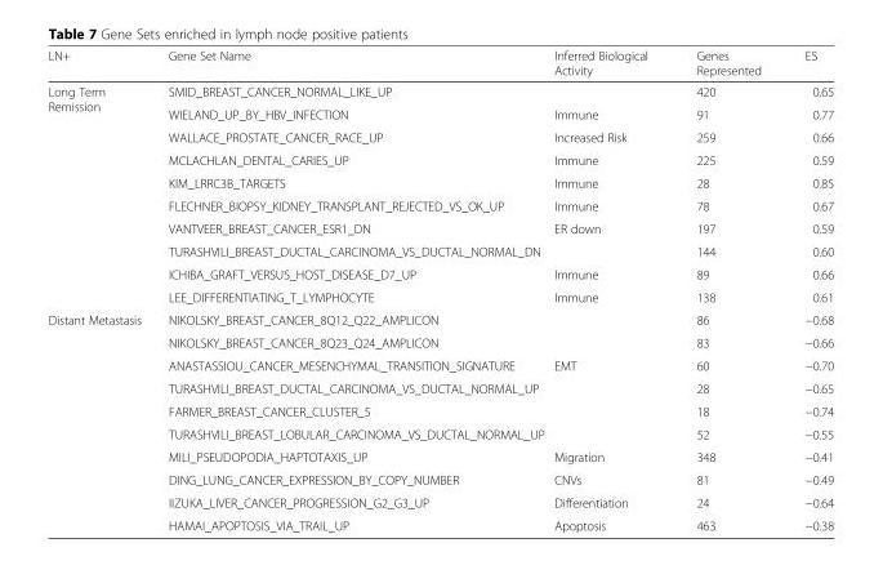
<table><thead><tr><td>LN+</td><td>Gene Set Name</td><td>Inferred Biological Activity</td><td>Genes Represented</td><td>ES</td></tr></thead><tbody><tr><td rowspan="10">Long Term Remission</td><td>SMID_BREAST_CANCER_NORMAL_LIKE_UP</td><td></td><td>420</td><td>0.65</td></tr><tr><td>WIELAND_UP_BY_HBV_INFECTION</td><td>Immune</td><td>91</td><td>0.77</td></tr><tr><td>WALLACE_PROSTATE_CANCER_RACE_UP</td><td>Increased Risk</td><td>259</td><td>0.66</td></tr><tr><td>MCLACHLAN_DENTAL_CARIES_UP</td><td>Immune</td><td>225</td><td>0.59</td></tr><tr><td>KIM_LRRC3B_TARGETS</td><td>Immune</td><td>28</td><td>0.85</td></tr><tr><td>FLECHNER_BIOPSY_KIDNEY_TRANSPLANT_REJECTED_VS_OK_UP</td><td>Immune</td><td>78</td><td>0.67</td></tr><tr><td>VANTVEER_BREAST_CANCER_ESR1_DN</td><td>ER down</td><td>197</td><td>0.59</td></tr><tr><td>TURASHVILI_BREAST_DUCTAL_CARCINOMA_VS_DUCTAL_NORMAL_DN</td><td></td><td>144</td><td>0.60</td></tr><tr><td>ICHIBA_GRAFT_VERSUS_HOST_DISEASE_D7_UP</td><td>Immune</td><td>89</td><td>0.66</td></tr><tr><td>LEE_DIFFERENTIATING_T_LYMPHOCYTE</td><td>Immune</td><td>138</td><td>0.61</td></tr><tr><td rowspan="10">Distant Metastasis</td><td>NIKOLSKY_BREAST_CANCER_8Q12_Q22_AMPLICON</td><td></td><td>86</td><td>−0.68</td></tr><tr><td>NIKOLSKY_BREAST_CANCER_8Q23_Q24_AMPLICON</td><td></td><td>83</td><td>−0.66</td></tr><tr><td>ANASTASSIOU_CANCER_MESENCHYMAL_TRANSITION_SIGNATURE</td><td>EMT</td><td>60</td><td>−0.70</td></tr><tr><td>TURASHVILI_BREAST_DUCTAL_CARCINOMA_VS_DUCTAL_NORMAL_UP</td><td></td><td>28</td><td>−0.65</td></tr><tr><td>FARMER_BREAST_CANCER_CLUSTER_5</td><td></td><td>18</td><td>−0.74</td></tr><tr><td>TURASHVILI_BREAST_LOBULAR_CARCINOMA_VS_DUCTAL_NORMAL_UP</td><td></td><td>52</td><td>−0.55</td></tr><tr><td>MILI_PSEUDOPODIA_HAPTOTAXIS_UP</td><td>Migration</td><td>348</td><td>−0.41</td></tr><tr><td>DING_LUNG_CANCER_EXPRESSION_BY_COPY_NUMBER</td><td>CNVs</td><td>81</td><td>−0.49</td></tr><tr><td>IIZUKA_LIVER_CANCER_PROGRESSION_G2_G3_UP</td><td>Differentiation</td><td>24</td><td>−0.64</td></tr><tr><td>HAMAI_APOPTOSIS_VIA_TRAIL_UP</td><td>Apoptosis</td><td>463</td><td>−0.38</td></tr></tbody></table>